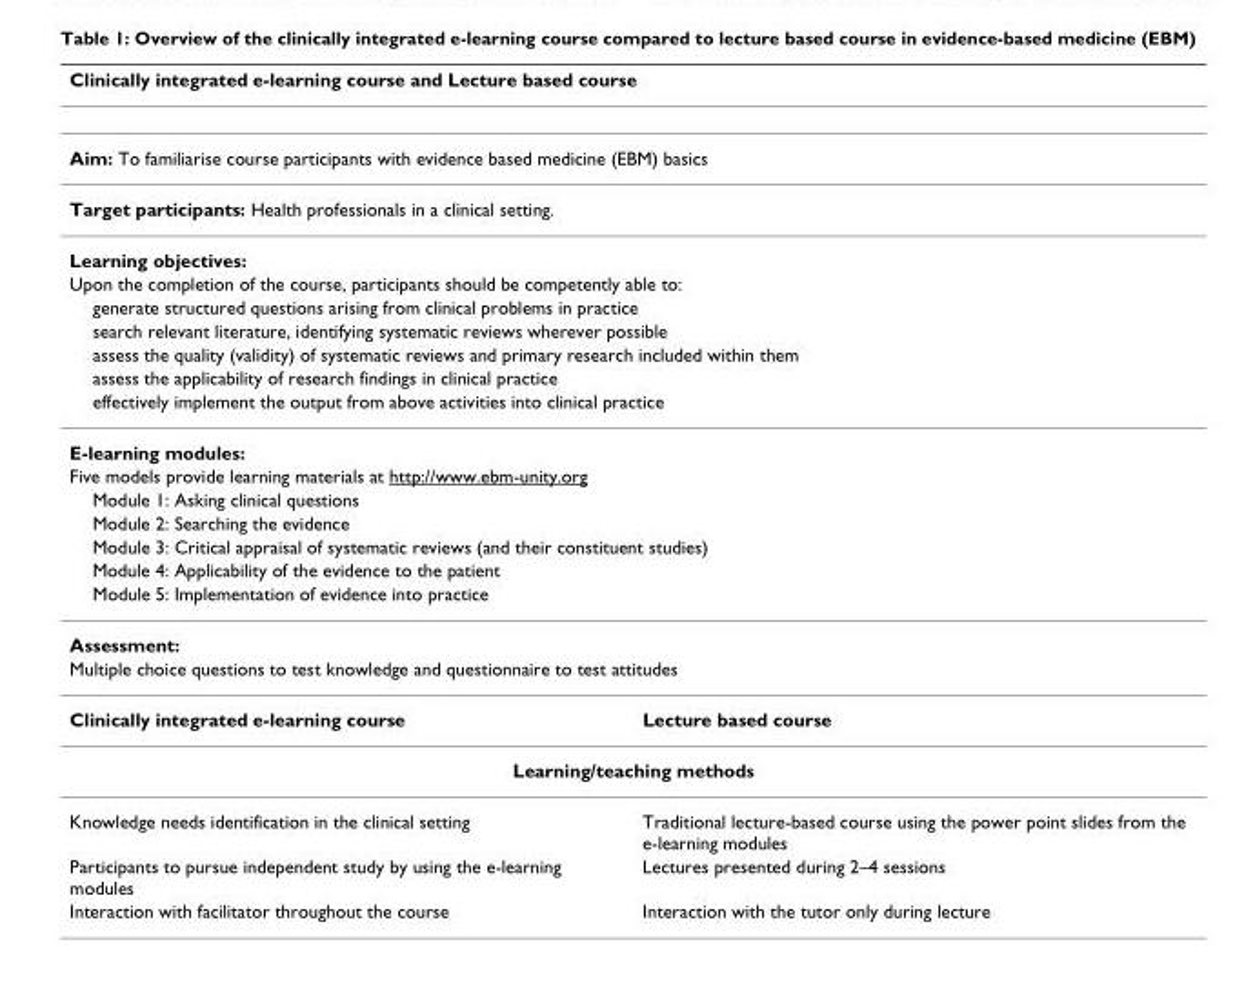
<table><thead><tr><td colspan="2">Clinically integrated e-learning course and Lecture based course</td></tr></thead><tbody><tr><td colspan="2">Aim: To familiarise course participants with evidence based medicine (EBM) basics</td></tr><tr><td colspan="2">Target participants: Health professionals in a clinical setting.</td></tr><tr><td colspan="2">Learning objectives:</td></tr><tr><td colspan="2">Upon the completion of the course, participants should be competently able to:</td></tr><tr><td colspan="2">generate structured questions arising from clinical problems in practice</td></tr><tr><td colspan="2">search relevant literature, identifying systematic reviews wherever possible</td></tr><tr><td colspan="2">assess the quality (validity) of systematic reviews and primary research included within them</td></tr><tr><td colspan="2">assess the applicability of research findings in clinical practice</td></tr><tr><td colspan="2">effectively implement the output from above activities into clinical practice</td></tr><tr><td colspan="2">E-learning modules:</td></tr><tr><td colspan="2">Five models provide learning materials at http://www.ebm-unity.org</td></tr><tr><td colspan="2">Module 1: Asking clinical questions</td></tr><tr><td colspan="2">Module 2: Searching the evidence</td></tr><tr><td colspan="2">Module 3: Critical appraisal of systematic reviews (and their constituent studies)</td></tr><tr><td colspan="2">Module 4: Applicability of the evidence to the patient</td></tr><tr><td colspan="2">Module 5: Implementation of evidence into practice</td></tr><tr><td colspan="2">Assessment:</td></tr><tr><td colspan="2">Multiple choice questions to test knowledge and questionnaire to test attitudes</td></tr><tr><td>Clinically integrated e-learning course</td><td>Lecture based course</td></tr><tr><td colspan="2">Learning/teaching methods</td></tr><tr><td>Knowledge needs identification in the clinical setting</td><td>Traditional lecture-based course using the power point slides from the e-learning modules</td></tr><tr><td>Participants to pursue independent study by using the e-learning modules</td><td>Lectures presented during 2–4 sessions</td></tr><tr><td>Interaction with facilitator throughout the course</td><td>Interaction with the tutor only during lecture</td></tr></tbody></table>